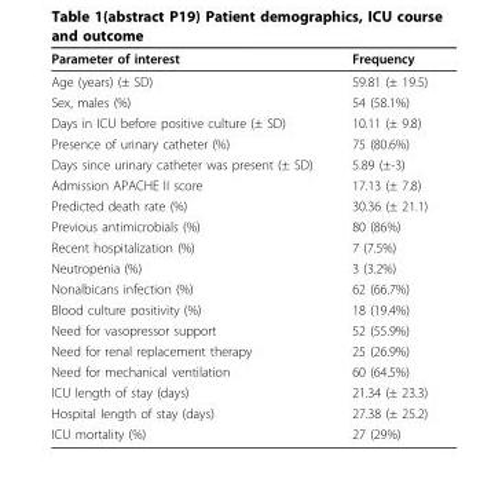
<table><thead><tr><td>Parameter of interest</td><td>Frequency</td></tr></thead><tbody><tr><td>Age (years) (± SD)</td><td>59.81 (± 19.5)</td></tr><tr><td>Sex, males (%)</td><td>54 (58.1%)</td></tr><tr><td>Days in ICU before positive culture (± SD)</td><td>10.11 (± 9.8)</td></tr><tr><td>Presence of urinary catheter (%)</td><td>75 (80.6%)</td></tr><tr><td>Days since urinary catheter was present (± SD)</td><td>5.89 (±-3)</td></tr><tr><td>Admission APACHE II score</td><td>17.13 (± 7.8)</td></tr><tr><td>Predicted death rate (%)</td><td>30.36 (± 21.1)</td></tr><tr><td>Previous antimicrobials (%)</td><td>80 (86%)</td></tr><tr><td>Recent hospitalization (%)</td><td>7 (7.5%)</td></tr><tr><td>Neutropenia (%)</td><td>3 (3.2%)</td></tr><tr><td>Nonalbicans infection (%)</td><td>62 (66.7%)</td></tr><tr><td>Blood culture positivity (%)</td><td>18 (19.4%)</td></tr><tr><td>Need for vasopressor support</td><td>52 (55.9%)</td></tr><tr><td>Need for renal replacement therapy</td><td>25 (26.9%)</td></tr><tr><td>Need for mechanical ventilation</td><td>60 (64.5%)</td></tr><tr><td>ICU length of stay (days)</td><td>21.34 (± 23.3)</td></tr><tr><td>Hospital length of stay (days)</td><td>27.38 (± 25.2)</td></tr><tr><td>ICU mortality (%)</td><td>27 (29%)</td></tr></tbody></table>